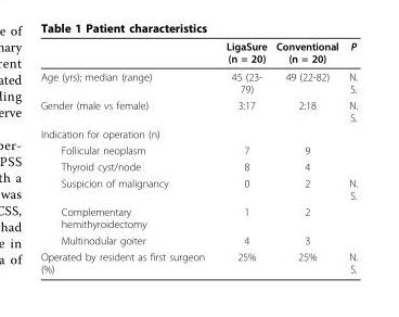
<table><thead><tr><td></td><td>LigaSure (n = 20)</td><td>Conventional (n = 20)</td><td>P</td></tr></thead><tbody><tr><td>Age (yrs); median (range)</td><td>45 (23- 79)</td><td>49 (22-82)</td><td>N. S.</td></tr><tr><td>Gender (male vs female)</td><td>3:17</td><td>2:18</td><td>N. S.</td></tr><tr><td colspan="4">Indication for operation (n)</td></tr><tr><td>Follicular neoplasm</td><td>7</td><td>9</td><td></td></tr><tr><td>Thyroid cyst/node</td><td>8</td><td>4</td><td></td></tr><tr><td>Suspicion of malignancy</td><td>0</td><td>2</td><td>N. S.</td></tr><tr><td>Complementary hemithyroidectomy</td><td>1</td><td>2</td><td></td></tr><tr><td>Multinodular goiter</td><td>4</td><td>3</td><td></td></tr><tr><td>Operated by resident as first surgeon (%)</td><td>25%</td><td>25%</td><td>N. S.</td></tr></tbody></table>